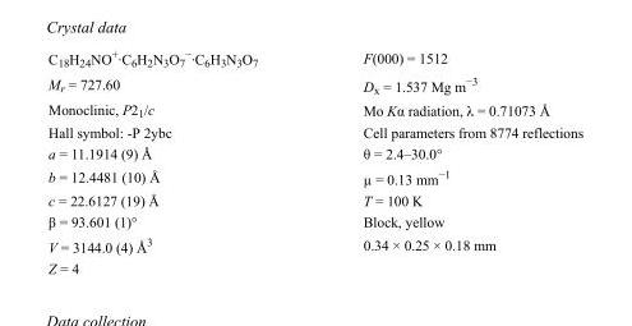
<table><tbody><tr><td>C<sub>18</sub>H<sub>24</sub>NO<sup>+</sup>·C<sub>6</sub>H<sub>2</sub>N<sub>3</sub>O<sub>7</sub> <sup>−</sup>·C<sub>6</sub>H<sub>3</sub>N<sub>3</sub>O<sub>7</sub></td><td>F(000) = 1512</td></tr><tr><td>M<sub>r</sub> = 727.60</td><td>D<sub>x</sub> = 1.537 Mg m<sup>−3</sup></td></tr><tr><td>Monoclinic, P2<sub>1</sub>/c</td><td>Mo Kα radiation, λ = 0.71073 Å</td></tr><tr><td>Hall symbol: -P 2ybc</td><td>Cell parameters from 8774 reflections</td></tr><tr><td>a = 11.1914 (9) Å</td><td>θ = 2.4–30.0°</td></tr><tr><td>b = 12.4481 (10) Å</td><td>µ = 0.13 mm<sup>−1</sup></td></tr><tr><td>c = 22.6127 (19) Å</td><td>T = 100 K</td></tr><tr><td>β = 93.601 (1)°</td><td>Block, yellow</td></tr><tr><td>V = 3144.0 (4) Å<sup>3</sup></td><td>0.34 × 0.25 × 0.18 mm</td></tr><tr><td>Z = 4</td><td></td></tr></tbody></table>